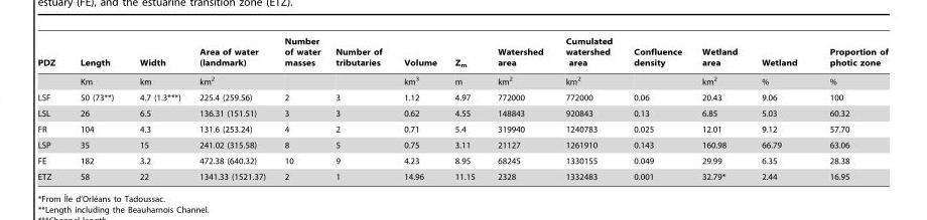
<table><thead><tr><td>PDZ</td><td>Length</td><td>Width</td><td>Area of water (landmark)</td><td>Number of water masses</td><td>Number of tributaries</td><td>Volume</td><td>Z<sub>m</sub></td><td>Watershed area</td><td>Cumulated watershed area</td><td>Confluence density</td><td>Wetland area</td><td>Wetland</td><td>Proportion of photic zone</td></tr></thead><tbody><tr><td></td><td>Km</td><td>km</td><td>km<sup>2</sup></td><td></td><td></td><td>km<sup>3</sup></td><td>m</td><td>km<sup>2</sup></td><td>km<sup>2</sup></td><td></td><td>km<sup>2</sup></td><td>%</td><td>%</td></tr><tr><td>LSF</td><td>50 (73**)</td><td>4.7 (1.3***)</td><td>225.4 (259.56)</td><td>2</td><td>3</td><td>1.12</td><td>4.97</td><td>772000</td><td>772000</td><td>0.06</td><td>20.43</td><td>9.06</td><td>100</td></tr><tr><td>LSL</td><td>26</td><td>6.5</td><td>136.31 (151.51)</td><td>3</td><td>3</td><td>0.62</td><td>4.55</td><td>148843</td><td>920843</td><td>0.13</td><td>6.85</td><td>5.03</td><td>60.32</td></tr><tr><td>FR</td><td>104</td><td>4.3</td><td>131.6 (253.24)</td><td>4</td><td>2</td><td>0.71</td><td>5.4</td><td>319940</td><td>1240783</td><td>0.025</td><td>12.01</td><td>9.12</td><td>57.70</td></tr><tr><td>LSP</td><td>35</td><td>15</td><td>241.02 (315.58)</td><td>8</td><td>5</td><td>0.75</td><td>3.11</td><td>21127</td><td>1261910</td><td>0.143</td><td>160.98</td><td>66.79</td><td>63.06</td></tr><tr><td>FE</td><td>182</td><td>3.2</td><td>472.38 (640.32)</td><td>10</td><td>9</td><td>4.23</td><td>8.95</td><td>68245</td><td>1330155</td><td>0.049</td><td>29.99</td><td>6.35</td><td>28.38</td></tr><tr><td>ETZ</td><td>58</td><td>22</td><td>1341.33 (1521.37)</td><td>2</td><td>1</td><td>14.96</td><td>11.15</td><td>2328</td><td>1332483</td><td>0.001</td><td>32.79*</td><td>2.44</td><td>16.95</td></tr></tbody></table>